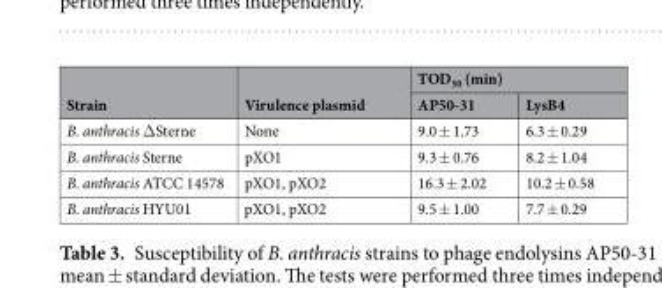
<table><thead><tr><td rowspan="2">Strain</td><td rowspan="2">Virulence plasmid</td><td colspan="2">TOD<sub>50</sub> (min)</td></tr><tr><td>AP50-31</td><td>LysB4</td></tr></thead><tbody><tr><td>B. anthracis ΔSterne</td><td>None</td><td>9.0 ± 1.73</td><td>6.3 ± 0.29</td></tr><tr><td>B. anthracis Sterne</td><td>pXO1</td><td>9.3 ± 0.76</td><td>8.2 ± 1.04</td></tr><tr><td>B. anthracis ATCC 14578</td><td>pXO1, pXO2</td><td>16.3 ± 2.02</td><td>10.2 ± 0.58</td></tr><tr><td>B. anthracis HYU01</td><td>pXO1, pXO2</td><td>9.5 ± 1.00</td><td>7.7 ± 0.29</td></tr></tbody></table>